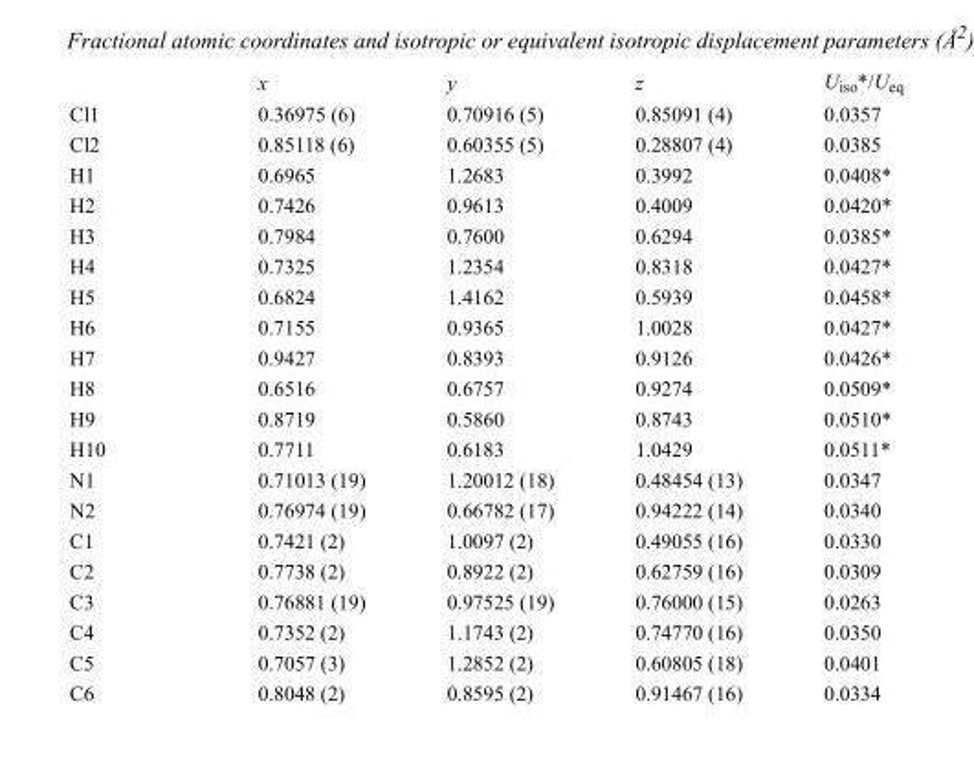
<table><thead><tr><td></td><td>x</td><td>y</td><td>z</td><td>U<sub>iso</sub>*/U<sub>eq</sub></td></tr></thead><tbody><tr><td>Cl1</td><td>0.36975 (6)</td><td>0.70916 (5)</td><td>0.85091 (4)</td><td>0.0357</td></tr><tr><td>Cl2</td><td>0.85118 (6)</td><td>0.60355 (5)</td><td>0.28807 (4)</td><td>0.0385</td></tr><tr><td>H1</td><td>0.6965</td><td>1.2683</td><td>0.3992</td><td>0.0408*</td></tr><tr><td>H2</td><td>0.7426</td><td>0.9613</td><td>0.4009</td><td>0.0420*</td></tr><tr><td>H3</td><td>0.7984</td><td>0.7600</td><td>0.6294</td><td>0.0385*</td></tr><tr><td>H4</td><td>0.7325</td><td>1.2354</td><td>0.8318</td><td>0.0427*</td></tr><tr><td>H5</td><td>0.6824</td><td>1.4162</td><td>0.5939</td><td>0.0458*</td></tr><tr><td>H6</td><td>0.7155</td><td>0.9365</td><td>1.0028</td><td>0.0427*</td></tr><tr><td>H7</td><td>0.9427</td><td>0.8393</td><td>0.9126</td><td>0.0426*</td></tr><tr><td>H8</td><td>0.6516</td><td>0.6757</td><td>0.9274</td><td>0.0509*</td></tr><tr><td>H9</td><td>0.8719</td><td>0.5860</td><td>0.8743</td><td>0.0510*</td></tr><tr><td>H10</td><td>0.7711</td><td>0.6183</td><td>1.0429</td><td>0.0511*</td></tr><tr><td>N1</td><td>0.71013 (19)</td><td>1.20012 (18)</td><td>0.48454 (13)</td><td>0.0347</td></tr><tr><td>N2</td><td>0.76974 (19)</td><td>0.66782 (17)</td><td>0.94222 (14)</td><td>0.0340</td></tr><tr><td>C1</td><td>0.7421 (2)</td><td>1.0097 (2)</td><td>0.49055 (16)</td><td>0.0330</td></tr><tr><td>C2</td><td>0.7738 (2)</td><td>0.8922 (2)</td><td>0.62759 (16)</td><td>0.0309</td></tr><tr><td>C3</td><td>0.76881 (19)</td><td>0.97525 (19)</td><td>0.76000 (15)</td><td>0.0263</td></tr><tr><td>C4</td><td>0.7352 (2)</td><td>1.1743 (2)</td><td>0.74770 (16)</td><td>0.0350</td></tr><tr><td>C5</td><td>0.7057 (3)</td><td>1.2852 (2)</td><td>0.60805 (18)</td><td>0.0401</td></tr><tr><td>C6</td><td>0.8048 (2)</td><td>0.8595 (2)</td><td>0.91467 (16)</td><td>0.0334</td></tr></tbody></table>